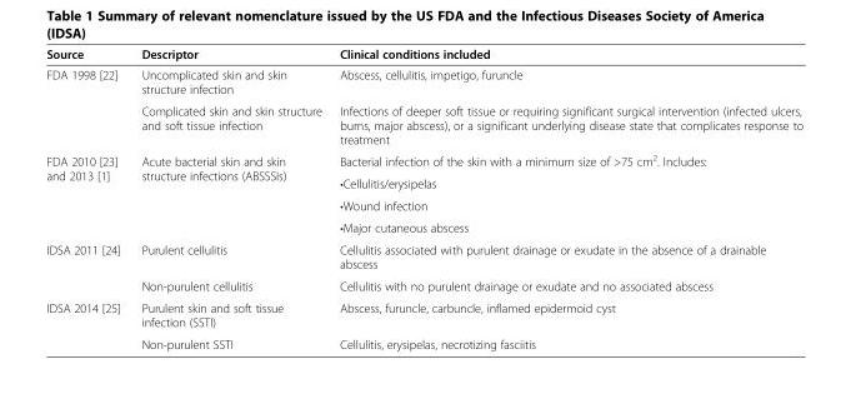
<table><thead><tr><td>Source</td><td>Descriptor</td><td>Clinical conditions included</td></tr></thead><tbody><tr><td rowspan="2">FDA 1998 [22]</td><td>Uncomplicated skin and skin structure infection</td><td>Abscess, cellulitis, impetigo, furuncle</td></tr><tr><td>Complicated skin and skin structure and soft tissue infection</td><td>Infections of deeper soft tissue or requiring significant surgical intervention (infected ulcers, burns, major abscess), or a significant underlying disease state that complicates response to treatment</td></tr><tr><td rowspan="4">FDA 2010 [23] and 2013 [1]</td><td rowspan="2">Acute bacterial skin and skin structure infections (ABSSSIs)</td><td>Bacterial infection of the skin with a minimum size of &gt;75 cm<sup>2</sup>. Includes:</td></tr><tr><td>•Cellulitis/erysipelas</td></tr><tr><td></td><td>•Wound infection</td></tr><tr><td></td><td>•Major cutaneous abscess</td></tr><tr><td rowspan="2">IDSA 2011 [24]</td><td>Purulent cellulitis</td><td>Cellulitis associated with purulent drainage or exudate in the absence of a drainable abscess</td></tr><tr><td>Non-purulent cellulitis</td><td>Cellulitis with no purulent drainage or exudate and no associated abscess</td></tr><tr><td rowspan="2">IDSA 2014 [25]</td><td>Purulent skin and soft tissue infection (SSTI)</td><td>Abscess, furuncle, carbuncle, inflamed epidermoid cyst</td></tr><tr><td>Non-purulent SSTI</td><td>Cellulitis, erysipelas, necrotizing fasciitis</td></tr></tbody></table>